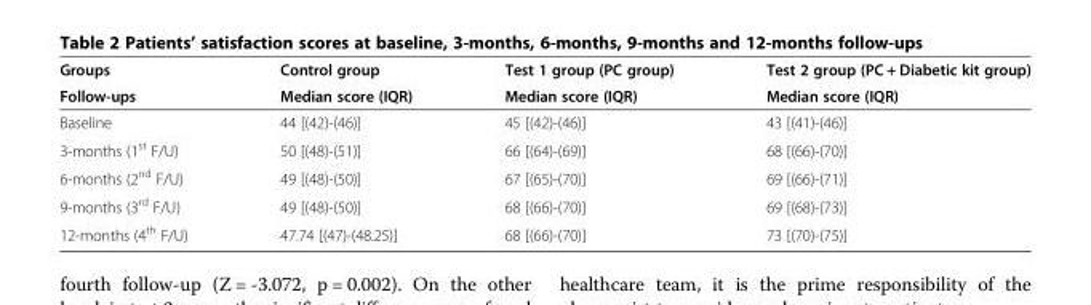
<table><thead><tr><td rowspan="2">Groups Follow-ups</td><td rowspan="2">Control group Median score (IQR)</td><td rowspan="2">Test 1 group (PC group) Median score (IQR)</td><td rowspan="2">Test 2 group (PC + Diabetic kit group) Median score (IQR)</td></tr><tr></tr></thead><tbody><tr><td>Baseline</td><td>44 [(42)-(46)]</td><td>45 [(42)-(46)]</td><td>43 [(41)-(46)]</td></tr><tr><td>3-months (1<sup>st</sup> F/U)</td><td>50 [(48)-(51)]</td><td>66 [(64)-(69)]</td><td>68 [(66)-(70)]</td></tr><tr><td>6-months (2<sup>nd</sup> F/U)</td><td>49 [(48)-(50)]</td><td>67 [(65)-(70)]</td><td>69 [(66)-(71)]</td></tr><tr><td>9-months (3<sup>rd</sup> F/U)</td><td>49 [(48)-(50)]</td><td>68 [(66)-(70)]</td><td>69 [(68)-(73)]</td></tr><tr><td>12-months (4<sup>th</sup> F/U)</td><td>47.74 [(47)-(48.25)]</td><td>68 [(66)-(70)]</td><td>73 [(70)-(75)]</td></tr></tbody></table>